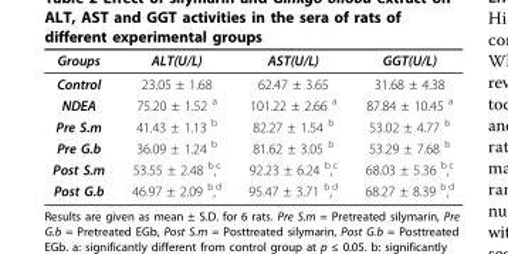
<table><thead><tr><td>Groups</td><td>ALT(U/L)</td><td>AST(U/L)</td><td>GGT(U/L)</td></tr></thead><tbody><tr><td>Control</td><td>23.05 ± 1.68</td><td>62.47 ± 3.65</td><td>31.68 ± 4.38</td></tr><tr><td>NDEA</td><td>75.20 ± 1.52 <sup>a</sup></td><td>101.22 ± 2.66 <sup>a</sup></td><td>87.84 ± 10.45 <sup>a</sup></td></tr><tr><td>Pre S.m</td><td>41.43 ± 1.13 <sup>b</sup></td><td>82.27 ± 1.54 <sup>b</sup></td><td>53.02 ± 4.77 <sup>b</sup></td></tr><tr><td>Pre G.b</td><td>36.09 ± 1.24 <sup>b</sup></td><td>81.62 ± 3.05 <sup>b</sup></td><td>53.29 ± 7.68 <sup>b</sup></td></tr><tr><td>Post S.m</td><td>53.55 ± 2.48 <sup>b</sup>,<sup>c</sup></td><td>92.23 ± 6.24 <sup>b</sup>,<sup>c</sup></td><td>68.03 ± 5.36 <sup>b</sup>,<sup>c</sup></td></tr><tr><td>Post G.b</td><td>46.97 ± 2.09 <sup>b</sup>,<sup>d</sup></td><td>95.47 ± 3.71 <sup>b</sup>,<sup>d</sup></td><td>68.27 ± 8.39 <sup>b</sup>,<sup>d</sup></td></tr></tbody></table>